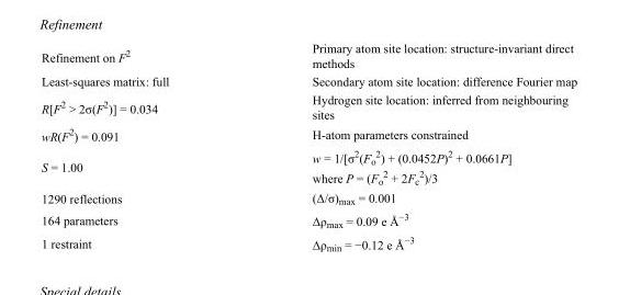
<table><tbody><tr><td>Refinement on F<sup>2</sup></td><td>Primary atom site location: structure-invariant direct methods</td></tr><tr><td>Least-squares matrix: full</td><td>Secondary atom site location: difference Fourier map</td></tr><tr><td>R[F<sup>2</sup> &gt; 2σ(F<sup>2</sup>)] = 0.034</td><td>Hydrogen site location: inferred from neighbouring sites</td></tr><tr><td>wR(F<sup>2</sup>) = 0.091</td><td>H-atom parameters constrained</td></tr><tr><td>S = 1.00</td><td>w = 1/[σ<sup>2</sup>(F<sub>o</sub> <sup>2</sup>) + (0.0452P)<sup>2</sup> + 0.0661P] where P = (F<sub>o</sub> <sup>2</sup> + 2F<sub>c</sub> <sup>2</sup>)/3</td></tr><tr><td>1290 reflections</td><td>(Δ/σ)<sub>max</sub> = 0.001</td></tr><tr><td>164 parameters</td><td>Δρ<sub>max</sub> = 0.09 e Å<sup>−3</sup></td></tr><tr><td>1 restraint</td><td>Δρ<sub>min</sub> = −0.12 e Å<sup>−3</sup></td></tr></tbody></table>